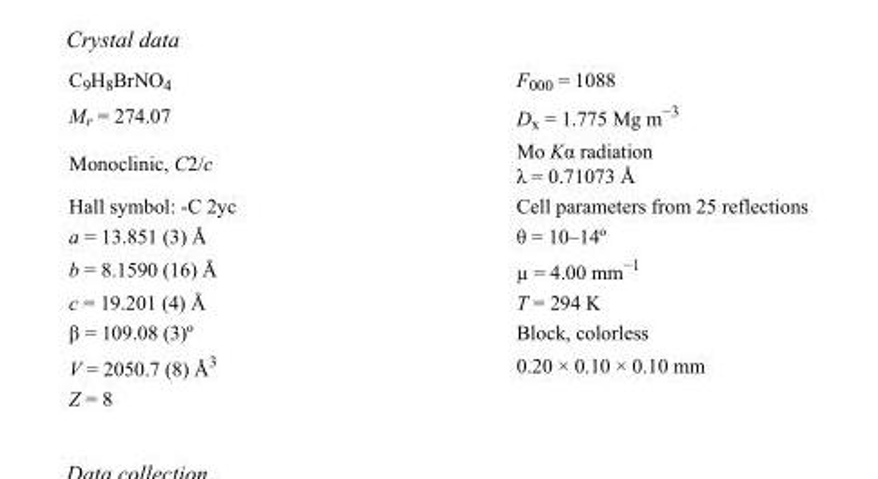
<table><tbody><tr><td>C<sub>9</sub>H<sub>8</sub>BrNO<sub>4</sub></td><td>F000 = 1088</td></tr><tr><td>M<sub>r</sub> = 274.07</td><td>D<sub>x</sub> = 1.775 Mg m<sup>−3</sup></td></tr><tr><td>Monoclinic, C2/c</td><td>Mo Kα radiation λ = 0.71073 Å</td></tr><tr><td>Hall symbol: -C 2yc</td><td>Cell parameters from 25 reflections</td></tr><tr><td>a = 13.851 (3) Å</td><td>θ = 10–14º</td></tr><tr><td>b = 8.1590 (16) Å</td><td>µ = 4.00 mm<sup>−1</sup></td></tr><tr><td>c = 19.201 (4) Å</td><td>T = 294 K</td></tr><tr><td>β = 109.08 (3)º</td><td>Block, colorless</td></tr><tr><td>V = 2050.7 (8) Å<sup>3</sup></td><td>0.20 × 0.10 × 0.10 mm</td></tr><tr><td>Z = 8</td><td></td></tr></tbody></table>